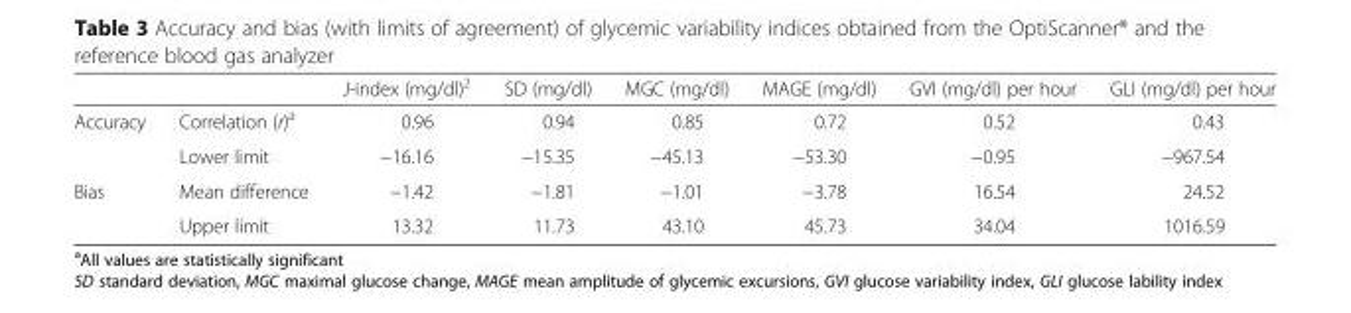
<table><thead><tr><td></td><td></td><td>J-index (mg/dl)<sup>2</sup></td><td>SD (mg/dl)</td><td>MGC (mg/dl)</td><td>MAGE (mg/dl)</td><td>GVI (mg/dl) per hour</td><td>GLI (mg/dl) per hour</td></tr></thead><tbody><tr><td rowspan="2">Accuracy</td><td>Correlation (r)<sup>a</sup></td><td>0.96</td><td>0.94</td><td>0.85</td><td>0.72</td><td>0.52</td><td>0.43</td></tr><tr><td>Lower limit</td><td>−16.16</td><td>−15.35</td><td>−45.13</td><td>−53.30</td><td>−0.95</td><td>−967.54</td></tr><tr><td rowspan="2">Bias</td><td>Mean difference</td><td>−1.42</td><td>−1.81</td><td>−1.01</td><td>−3.78</td><td>16.54</td><td>24.52</td></tr><tr><td>Upper limit</td><td>13.32</td><td>11.73</td><td>43.10</td><td>45.73</td><td>34.04</td><td>1016.59</td></tr></tbody></table>